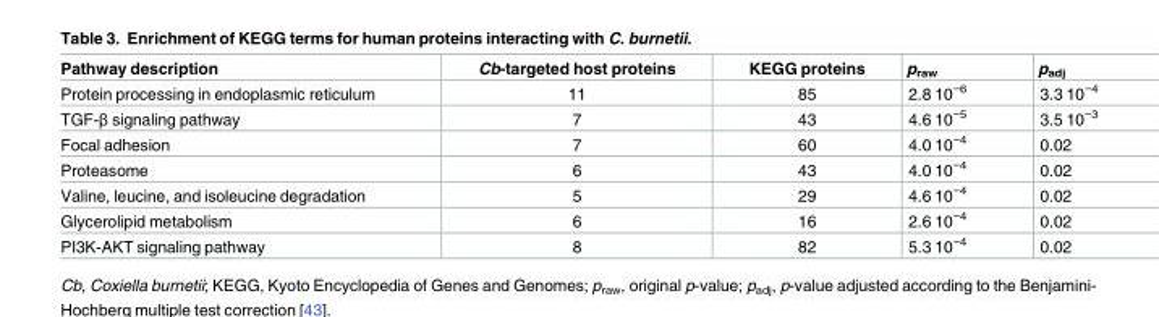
<table><thead><tr><td>Pathway description</td><td>Cb-targeted host proteins</td><td>KEGG proteins</td><td>p<sub>raw</sub></td><td>p<sub>adj</sub></td></tr></thead><tbody><tr><td>Protein processing in endoplasmic reticulum</td><td>11</td><td>85</td><td>2.8 10<sup>−6</sup></td><td>3.3 10<sup>−4</sup></td></tr><tr><td>TGF-β signaling pathway</td><td>7</td><td>43</td><td>4.6 10<sup>−5</sup></td><td>3.5 10<sup>−3</sup></td></tr><tr><td>Focal adhesion</td><td>7</td><td>60</td><td>4.0 10<sup>−4</sup></td><td>0.02</td></tr><tr><td>Proteasome</td><td>6</td><td>43</td><td>4.0 10<sup>−4</sup></td><td>0.02</td></tr><tr><td>Valine, leucine, and isoleucine degradation</td><td>5</td><td>29</td><td>4.6 10<sup>−4</sup></td><td>0.02</td></tr><tr><td>Glycerolipid metabolism</td><td>6</td><td>16</td><td>2.6 10<sup>−4</sup></td><td>0.02</td></tr><tr><td>PI3K-AKT signaling pathway</td><td>8</td><td>82</td><td>5.3 10<sup>−4</sup></td><td>0.02</td></tr></tbody></table>